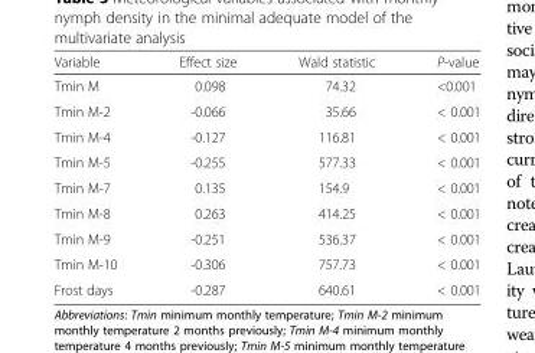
<table><thead><tr><td>Variable</td><td>Effect size</td><td>Wald statistic</td><td>P-value</td></tr></thead><tbody><tr><td>Tmin M</td><td>0.098</td><td>74.32</td><td>&lt;0.001</td></tr><tr><td>Tmin M-2</td><td>-0.066</td><td>35.66</td><td>&lt; 0.001</td></tr><tr><td>Tmin M-4</td><td>-0.127</td><td>116.81</td><td>&lt; 0.001</td></tr><tr><td>Tmin M-5</td><td>-0.255</td><td>577.33</td><td>&lt; 0.001</td></tr><tr><td>Tmin M-7</td><td>0.135</td><td>154.9</td><td>&lt; 0.001</td></tr><tr><td>Tmin M-8</td><td>0.263</td><td>414.25</td><td>&lt; 0.001</td></tr><tr><td>Tmin M-9</td><td>-0.251</td><td>536.37</td><td>&lt; 0.001</td></tr><tr><td>Tmin M-10</td><td>-0.306</td><td>757.73</td><td>&lt; 0.001</td></tr><tr><td>Frost days</td><td>-0.287</td><td>640.61</td><td>&lt; 0.001</td></tr></tbody></table>